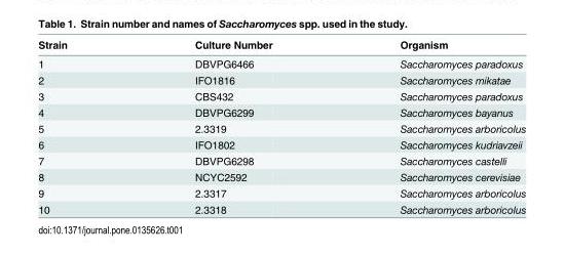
<table><thead><tr><td>Strain</td><td>Culture Number</td><td>Organism</td></tr></thead><tbody><tr><td>1</td><td>DBVPG6466</td><td>Saccharomyces paradoxus</td></tr><tr><td>2</td><td>IFO1816</td><td>Saccharomyces mikatae</td></tr><tr><td>3</td><td>CBS432</td><td>Saccharomyces paradoxus</td></tr><tr><td>4</td><td>DBVPG6299</td><td>Saccharomyces bayanus</td></tr><tr><td>5</td><td>2.3319</td><td>Saccharomyces arboricolus</td></tr><tr><td>6</td><td>IFO1802</td><td>Saccharomyces kudriavzeii</td></tr><tr><td>7</td><td>DBVPG6298</td><td>Saccharomyces castelli</td></tr><tr><td>8</td><td>NCYC2592</td><td>Saccharomyces cerevisiae</td></tr><tr><td>9</td><td>2.3317</td><td>Saccharomyces arboricolus</td></tr><tr><td>10</td><td>2.3318</td><td>Saccharomyces arboricolus</td></tr></tbody></table>